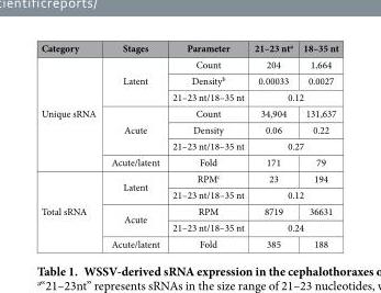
<table><thead><tr><td>Category</td><td>Stages</td><td>Parameter</td><td>21–23 nt<sup>a</sup></td><td>18–35 nt</td></tr></thead><tbody><tr><td rowspan="7">Unique sRNA</td><td rowspan="3">Latent</td><td>Count</td><td>204</td><td>1,664</td></tr><tr><td>Density<sup>b</sup></td><td>0.00033</td><td>0.0027</td></tr><tr><td>21–23 nt/18–35 nt</td><td colspan="2">0.12</td></tr><tr><td rowspan="3">Acute</td><td>Count</td><td>34,904</td><td>131,637</td></tr><tr><td>Density</td><td>0.06</td><td>0.22</td></tr><tr><td>21–23 nt/18–35 nt</td><td colspan="2">0.27</td></tr><tr><td>Acute/latent</td><td>Fold</td><td>171</td><td>79</td></tr><tr><td rowspan="5">Total sRNA</td><td rowspan="2">Latent</td><td>RPM<sup>c</sup></td><td>23</td><td>194</td></tr><tr><td>21–23 nt/18–35 nt</td><td colspan="2">0.12</td></tr><tr><td rowspan="2">Acute</td><td>RPM</td><td>8719</td><td>36631</td></tr><tr><td>21–23 nt/18–35 nt</td><td colspan="2">0.24</td></tr><tr><td>Acute/latent</td><td>Fold</td><td>385</td><td>188</td></tr></tbody></table>